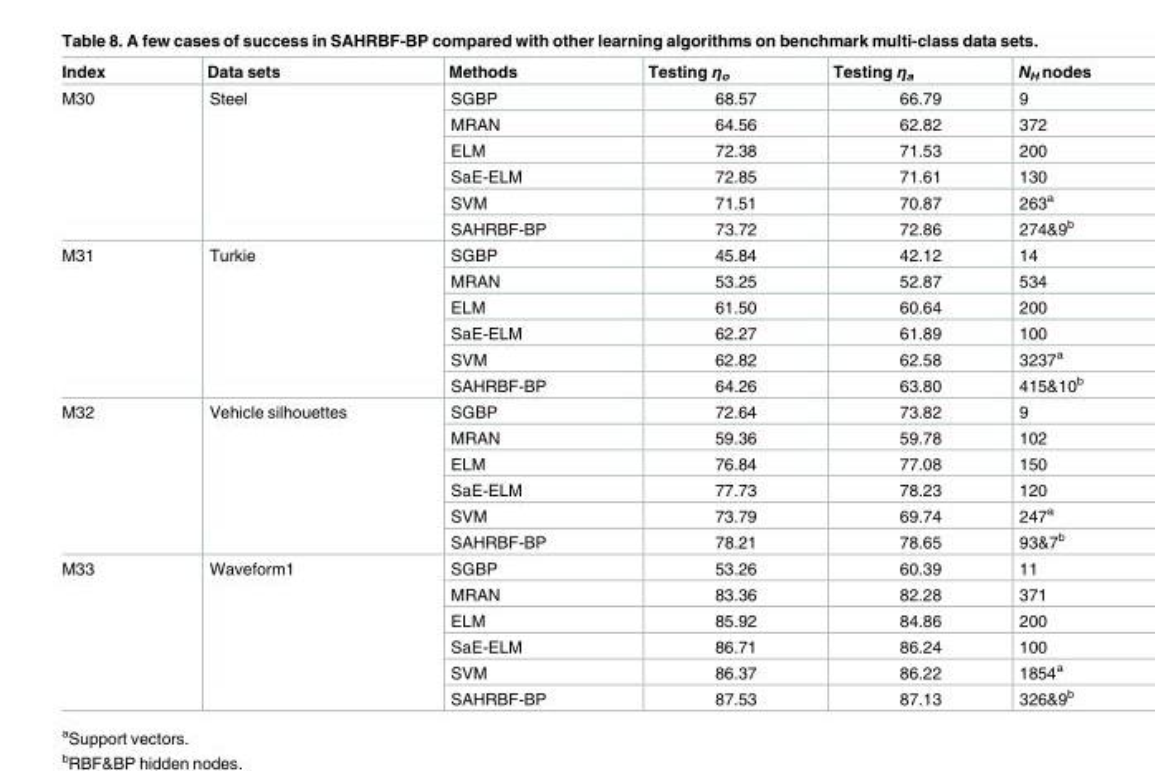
<table><thead><tr><td>Index</td><td>Data sets</td><td>Methods</td><td>Testing η<sub>o</sub></td><td>Testing η<sub>a</sub></td><td>N<sub>H</sub> nodes</td></tr></thead><tbody><tr><td rowspan="6">M30</td><td rowspan="6">Steel</td><td>SGBP</td><td>68.57</td><td>66.79</td><td>9</td></tr><tr><td>MRAN</td><td>64.56</td><td>62.82</td><td>372</td></tr><tr><td>ELM</td><td>72.38</td><td>71.53</td><td>200</td></tr><tr><td>SaE-ELM</td><td>72.85</td><td>71.61</td><td>130</td></tr><tr><td>SVM</td><td>71.51</td><td>70.87</td><td>263<sup>a</sup></td></tr><tr><td>SAHRBF-BP</td><td>73.72</td><td>72.86</td><td>274&amp;9<sup>b</sup></td></tr><tr><td rowspan="6">M31</td><td rowspan="6">Turkie</td><td>SGBP</td><td>45.84</td><td>42.12</td><td>14</td></tr><tr><td>MRAN</td><td>53.25</td><td>52.87</td><td>534</td></tr><tr><td>ELM</td><td>61.50</td><td>60.64</td><td>200</td></tr><tr><td>SaE-ELM</td><td>62.27</td><td>61.89</td><td>100</td></tr><tr><td>SVM</td><td>62.82</td><td>62.58</td><td>3237<sup>a</sup></td></tr><tr><td>SAHRBF-BP</td><td>64.26</td><td>63.80</td><td>415&amp;10<sup>b</sup></td></tr><tr><td rowspan="6">M32</td><td rowspan="6">Vehicle silhouettes</td><td>SGBP</td><td>72.64</td><td>73.82</td><td>9</td></tr><tr><td>MRAN</td><td>59.36</td><td>59.78</td><td>102</td></tr><tr><td>ELM</td><td>76.84</td><td>77.08</td><td>150</td></tr><tr><td>SaE-ELM</td><td>77.73</td><td>78.23</td><td>120</td></tr><tr><td>SVM</td><td>73.79</td><td>69.74</td><td>247<sup>a</sup></td></tr><tr><td>SAHRBF-BP</td><td>78.21</td><td>78.65</td><td>93&amp;7<sup>b</sup></td></tr><tr><td rowspan="6">M33</td><td rowspan="6">Waveform1</td><td>SGBP</td><td>53.26</td><td>60.39</td><td>11</td></tr><tr><td>MRAN</td><td>83.36</td><td>82.28</td><td>371</td></tr><tr><td>ELM</td><td>85.92</td><td>84.86</td><td>200</td></tr><tr><td>SaE-ELM</td><td>86.71</td><td>86.24</td><td>100</td></tr><tr><td>SVM</td><td>86.37</td><td>86.22</td><td>1854<sup>a</sup></td></tr><tr><td>SAHRBF-BP</td><td>87.53</td><td>87.13</td><td>326&amp;9<sup>b</sup></td></tr></tbody></table>